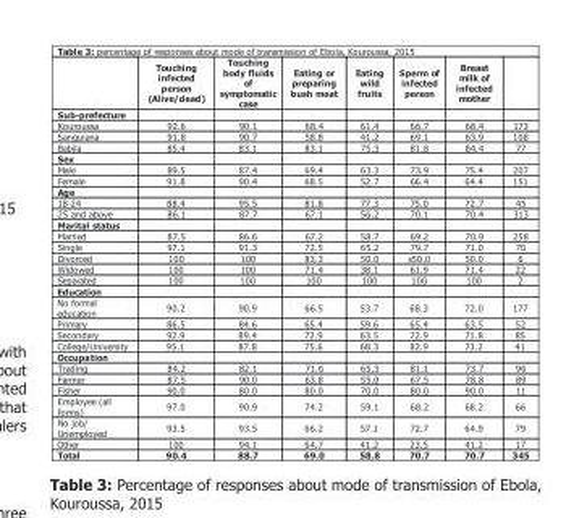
<table><thead><tr><td></td><td>Touching infected person (Alive/dead)</td><td>Touching body fluids of symptomatic case</td><td>Eating or preparing bush meat</td><td>Eating wild fruits</td><td>Sperm of infected person</td><td>Breast milk of infected mother</td><td></td></tr></thead><tbody><tr><td colspan="8">Subprefecture</td></tr><tr><td>Kouroussa</td><td>92.6</td><td>90.1</td><td>68.4</td><td>61.4</td><td>66.7</td><td>68.4</td><td>173</td></tr><tr><td>Sanguiana</td><td>91.8</td><td>90.7</td><td>58.8</td><td>41.2</td><td>69.1</td><td>63.9</td><td>108</td></tr><tr><td>Babila</td><td>85.4</td><td>83.1</td><td>83.1</td><td>75.3</td><td>81.8</td><td>84.4</td><td>77</td></tr><tr><td colspan="8">Sex</td></tr><tr><td>Male</td><td>89.5</td><td>87.4</td><td>69.4</td><td>63.3</td><td>73.9</td><td>75.4</td><td>207</td></tr><tr><td>Female</td><td>91.8</td><td>90.4</td><td>68.5</td><td>52.7</td><td>66.4</td><td>64.4</td><td>151</td></tr><tr><td colspan="8">Age</td></tr><tr><td>1824</td><td>88.4</td><td>95.5</td><td>81.8</td><td>77.3</td><td>75.0</td><td>72.7</td><td>45</td></tr><tr><td>25 and above</td><td>86.1</td><td>87.7</td><td>67.1</td><td>56.2</td><td>70.1</td><td>70.4</td><td>313</td></tr><tr><td colspan="8">Marital status</td></tr><tr><td>Married</td><td>87.5</td><td>86.6</td><td>67.2</td><td>58.7</td><td>69.2</td><td>70.9</td><td>258</td></tr><tr><td>Single</td><td>97.1</td><td>91.3</td><td>72.5</td><td>65.2</td><td>79.7</td><td>71.0</td><td>70</td></tr><tr><td>Divorced</td><td>100</td><td>100</td><td>83.3</td><td>50.0</td><td>s50.0</td><td>50.0</td><td>6</td></tr><tr><td>Widowed</td><td>100</td><td>100</td><td>71.4</td><td>38.1</td><td>61.9</td><td>71.4</td><td>22</td></tr><tr><td>Separated</td><td>100</td><td>100</td><td>100</td><td>100</td><td>100</td><td>100</td><td>2</td></tr><tr><td colspan="8">Education</td></tr><tr><td>No formal education</td><td>90.2</td><td>90.9</td><td>66.5</td><td>53.7</td><td>68.3</td><td>72.0</td><td>177</td></tr><tr><td>Primary</td><td>86.5</td><td>84.6</td><td>65.4</td><td>59.6</td><td>65.4</td><td>63.5</td><td>52</td></tr><tr><td>Secondary</td><td>92.9</td><td>89.4</td><td>72.9</td><td>63.5</td><td>72.9</td><td>71.8</td><td>85</td></tr><tr><td>College/University</td><td>95.1</td><td>87.8</td><td>75.6</td><td>68.3</td><td>82.9</td><td>73.2</td><td>41</td></tr><tr><td colspan="8">Occupation</td></tr><tr><td>Trading</td><td>84.2</td><td>82.1</td><td>71.6</td><td>65.3</td><td>81.1</td><td>73.7</td><td>96</td></tr><tr><td>Farmer</td><td>87.5</td><td>90.0</td><td>63.8</td><td>55.0</td><td>67.5</td><td>78.8</td><td>89</td></tr><tr><td>Fisher</td><td>90.0</td><td>80.0</td><td>80.0</td><td>70.0</td><td>80.0</td><td>90.0</td><td>11</td></tr><tr><td>Employee (all forms)</td><td>97.0</td><td>90.9</td><td>74.2</td><td>59.1</td><td>68.2</td><td>68.2</td><td>66</td></tr><tr><td>No job/ Unemployed</td><td>93.5</td><td>93.5</td><td>66.2</td><td>57.1</td><td>72.7</td><td>64.9</td><td>79</td></tr><tr><td>Other</td><td>100</td><td>94.1</td><td>64.7</td><td>41.2</td><td>23.5</td><td>41.2</td><td>17</td></tr><tr><td>Total</td><td>90.4</td><td>88.7</td><td>69.0</td><td>58.8</td><td>70.7</td><td>70.7</td><td>345</td></tr></tbody></table>